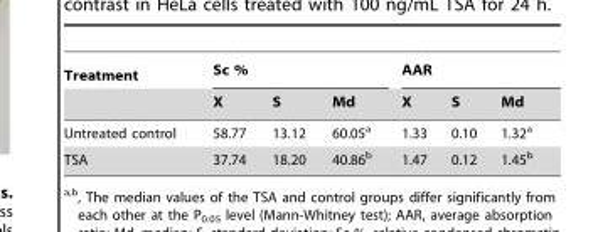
<table><thead><tr><td rowspan="2">Treatment</td><td colspan="3">Sc %</td><td colspan="3">AAR</td></tr><tr><td>X</td><td>S</td><td>Md</td><td>X</td><td>S</td><td>Md</td></tr></thead><tbody><tr><td>Untreated control</td><td>58.77</td><td>13.12</td><td>60.05<sup>a</sup></td><td>1.33</td><td>0.10</td><td>1.32<sup>a</sup></td></tr><tr><td>TSA</td><td>37.74</td><td>18.20</td><td>40.86<sup>b</sup></td><td>1.47</td><td>0.12</td><td>1.45<sup>b</sup></td></tr></tbody></table>